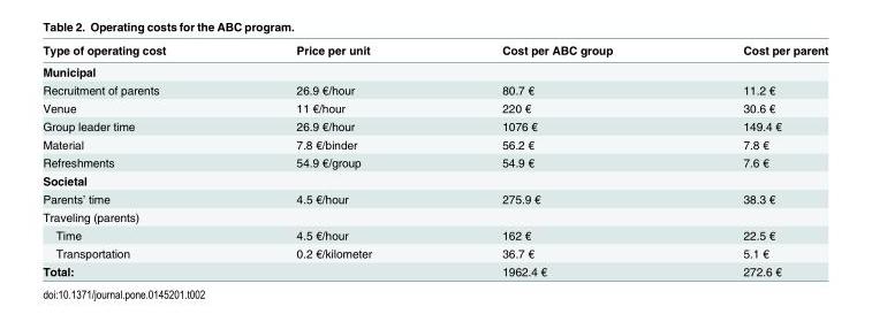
<table><thead><tr><td>Type of operating cost</td><td>Price per unit</td><td>Cost per ABC group</td><td>Cost per parent</td></tr></thead><tbody><tr><td colspan="4">Municipal</td></tr><tr><td>Recruitment of parents</td><td>26.9 €/hour</td><td>80.7 €</td><td>11.2 €</td></tr><tr><td>Venue</td><td>11 €/hour</td><td>220 €</td><td>30.6 €</td></tr><tr><td>Group leader time</td><td>26.9 €/hour</td><td>1076 €</td><td>149.4 €</td></tr><tr><td>Material</td><td>7.8 €/binder</td><td>56.2 €</td><td>7.8 €</td></tr><tr><td>Refreshments</td><td>54.9 €/group</td><td>54.9 €</td><td>7.6 €</td></tr><tr><td colspan="4">Societal</td></tr><tr><td>Parents’ time</td><td>4.5 €/hour</td><td>275.9 €</td><td>38.3 €</td></tr><tr><td colspan="4">Traveling (parents)</td></tr><tr><td>Time</td><td>4.5 €/hour</td><td>162 €</td><td>22.5 €</td></tr><tr><td>Transportation</td><td>0.2 €/kilometer</td><td>36.7 €</td><td>5.1 €</td></tr><tr><td>Total:</td><td></td><td>1962.4 €</td><td>272.6 €</td></tr></tbody></table>